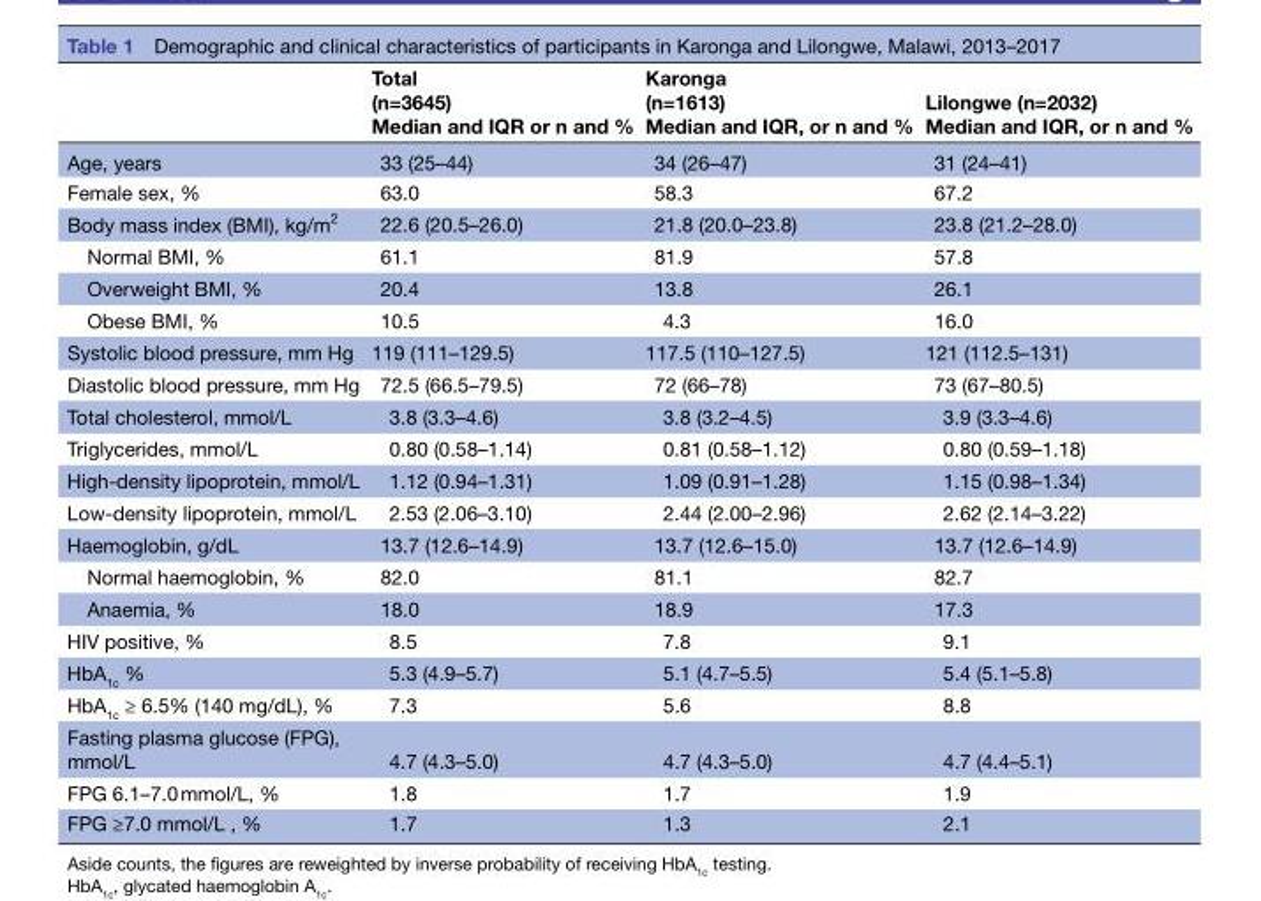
<table><thead><tr><td></td><td>Total (n=3645) Median and IQR or n and %</td><td>Karonga (n=1613) Median and IQR, or n and %</td><td>Lilongwe (n=2032) Median and IQR, or n and %</td></tr></thead><tbody><tr><td>Age, years</td><td>33 (25–44)</td><td>34 (26–47)</td><td>31 (24–41)</td></tr><tr><td>Female sex, %</td><td>63.0</td><td>58.3</td><td>67.2</td></tr><tr><td>Body mass index (BMI), kg/m<sup>2</sup></td><td>22.6 (20.5–26.0)</td><td>21.8 (20.0–23.8)</td><td>23.8 (21.2–28.0)</td></tr><tr><td>Normal BMI, %</td><td>61.1</td><td>81.9</td><td>57.8</td></tr><tr><td>Overweight BMI, %</td><td>20.4</td><td>13.8</td><td>26.1</td></tr><tr><td>Obese BMI, %</td><td>10.5</td><td>4.3</td><td>16.0</td></tr><tr><td>Systolic blood pressure, mm Hg</td><td>119 (111–129.5)</td><td>117.5 (110–127.5)</td><td>121 (112.5–131)</td></tr><tr><td>Diastolic blood pressure, mm Hg</td><td>72.5 (66.5–79.5)</td><td>72 (66–78)</td><td>73 (67–80.5)</td></tr><tr><td>Total cholesterol, mmol/L</td><td>3.8 (3.3–4.6)</td><td>3.8 (3.2–4.5)</td><td>3.9 (3.3–4.6)</td></tr><tr><td>Triglycerides, mmol/L</td><td>0.80 (0.58–1.14)</td><td>0.81 (0.58–1.12)</td><td>0.80 (0.59–1.18)</td></tr><tr><td>High-density lipoprotein, mmol/L</td><td>1.12 (0.94–1.31)</td><td>1.09 (0.91–1.28)</td><td>1.15 (0.98–1.34)</td></tr><tr><td>Low-density lipoprotein, mmol/L</td><td>2.53 (2.06–3.10)</td><td>2.44 (2.00–2.96)</td><td>2.62 (2.14–3.22)</td></tr><tr><td>Haemoglobin, g/dL</td><td>13.7 (12.6–14.9)</td><td>13.7 (12.6–15.0)</td><td>13.7 (12.6–14.9)</td></tr><tr><td>Normal haemoglobin, %</td><td>82.0</td><td>81.1</td><td>82.7</td></tr><tr><td>Anaemia, %</td><td>18.0</td><td>18.9</td><td>17.3</td></tr><tr><td>HIV positive, %</td><td>8.5</td><td>7.8</td><td>9.1</td></tr><tr><td>HbA<sub>1c</sub> %</td><td>5.3 (4.9–5.7)</td><td>5.1 (4.7–5.5)</td><td>5.4 (5.1–5.8)</td></tr><tr><td>HbA<sub>1c</sub> ≥ 6.5% (140 mg/dL), %</td><td>7.3</td><td>5.6</td><td>8.8</td></tr><tr><td>Fasting plasma glucose (FPG), mmol/L</td><td>4.7 (4.3–5.0)</td><td>4.7 (4.3–5.0)</td><td>4.7 (4.4–5.1)</td></tr><tr><td>FPG 6.1–7.0 mmol/L, %</td><td>1.8</td><td>1.7</td><td>1.9</td></tr><tr><td>FPG ≥7.0 mmol/L , %</td><td>1.7</td><td>1.3</td><td>2.1</td></tr></tbody></table>